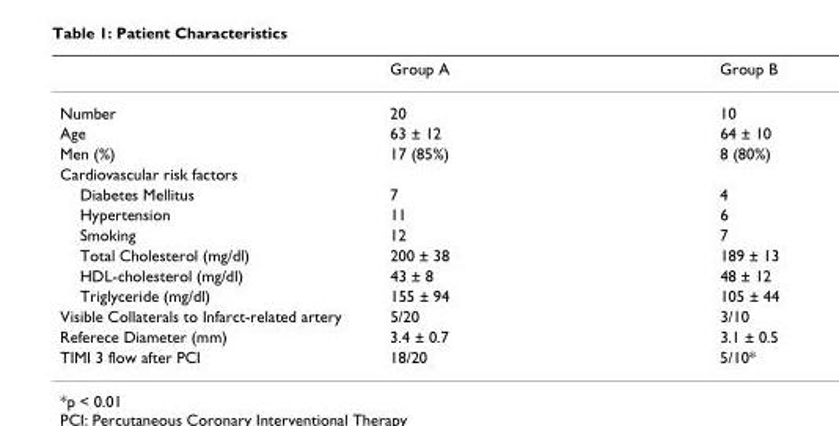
<table><thead><tr><td></td><td>Group A</td><td>Group B</td></tr></thead><tbody><tr><td>Number</td><td>20</td><td>10</td></tr><tr><td>Age</td><td>63 ± 12</td><td>64 ± 10</td></tr><tr><td>Men (%)</td><td>17 (85%)</td><td>8 (80%)</td></tr><tr><td colspan="3">Cardiovascular risk factors</td></tr><tr><td>Diabetes Mellitus</td><td>7</td><td>4</td></tr><tr><td>Hypertension</td><td>11</td><td>6</td></tr><tr><td>Smoking</td><td>12</td><td>7</td></tr><tr><td>Total Cholesterol (mg/dl)</td><td>200 ± 38</td><td>189 ± 13</td></tr><tr><td>HDL-cholesterol (mg/dl)</td><td>43 ± 8</td><td>48 ± 12</td></tr><tr><td>Triglyceride (mg/dl)</td><td>155 ± 94</td><td>105 ± 44</td></tr><tr><td>Visible Collaterals to Infarct-related artery</td><td>5/20</td><td>3/10</td></tr><tr><td>Referece Diameter (mm)</td><td>3.4 ± 0.7</td><td>3.1 ± 0.5</td></tr><tr><td>TIMI 3 flow after PCI</td><td>18/20</td><td>5/10*</td></tr></tbody></table>